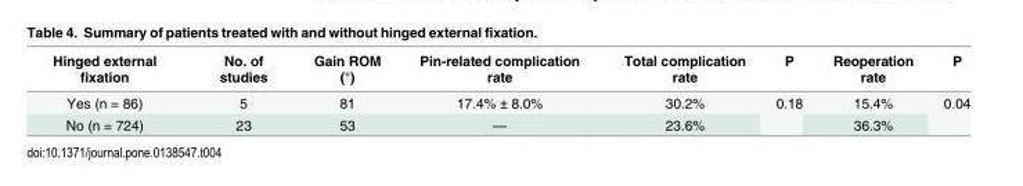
<table><thead><tr><td>Hinged external fixation</td><td>No. of studies</td><td>Gain ROM (°)</td><td>Pin-related complication rate</td><td>Total complication rate</td><td>P</td><td>Reoperation rate</td><td>P</td></tr></thead><tbody><tr><td>Yes (n = 86)</td><td>5</td><td>81</td><td>17.4% ± 8.0%</td><td>30.2%</td><td rowspan="2">0.18</td><td>15.4%</td><td rowspan="2">0.04</td></tr><tr><td>No (n = 724)</td><td>23</td><td>53</td><td>—</td><td>23.6%</td><td>36.3%</td></tr></tbody></table>